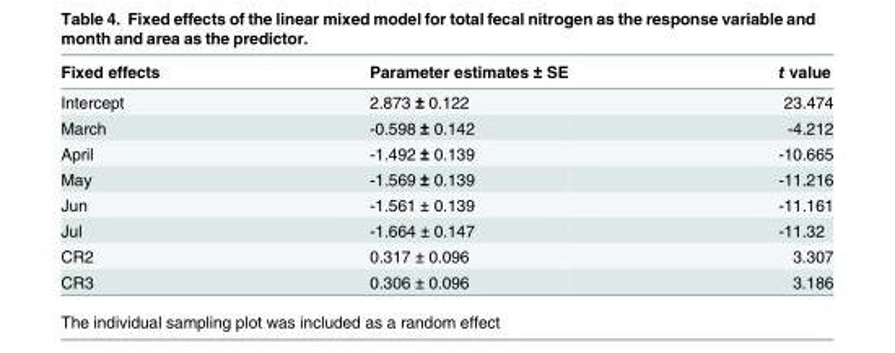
<table><thead><tr><td>Fixed effects</td><td>Parameter estimates ± SE</td><td>t value</td></tr></thead><tbody><tr><td>Intercept</td><td>2.873 ± 0.122</td><td>23.474</td></tr><tr><td>March</td><td>-0.598 ± 0.142</td><td>-4.212</td></tr><tr><td>April</td><td>-1.492 ± 0.139</td><td>-10.665</td></tr><tr><td>May</td><td>-1.569 ± 0.139</td><td>-11.216</td></tr><tr><td>Jun</td><td>-1.561 ± 0.139</td><td>-11.161</td></tr><tr><td>Jul</td><td>-1.664 ± 0.147</td><td>-11.32</td></tr><tr><td>CR2</td><td>0.317 ± 0.096</td><td>3.307</td></tr><tr><td>CR3</td><td>0.306 ± 0.096</td><td>3.186</td></tr></tbody></table>